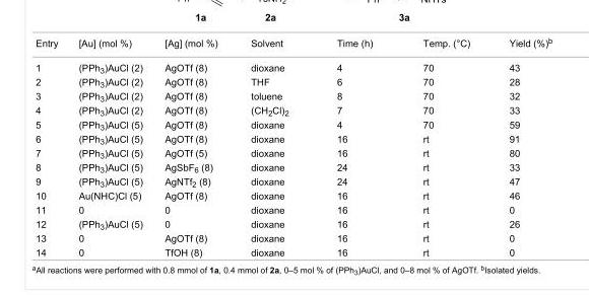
<table><tbody><tr><td>Entry</td><td>[Au] (mol %)</td><td>[Ag] (mol %)</td><td>Solvent</td><td>Time (h)</td><td>Temp. (°C)</td><td>Yield (%)<sup>b</sup></td></tr><tr><td>1</td><td>(PPh<sub>3</sub>)AuCl (2)</td><td>AgOTf (8)</td><td>dioxane</td><td>4</td><td>70</td><td>43</td></tr><tr><td>2</td><td>(PPh<sub>3</sub>)AuCl (2)</td><td>AgOTf (8)</td><td>THF</td><td>6</td><td>70</td><td>28</td></tr><tr><td>3</td><td>(PPh<sub>3</sub>)AuCl (2)</td><td>AgOTf (8)</td><td>toluene</td><td>8</td><td>70</td><td>32</td></tr><tr><td>4</td><td>(PPh<sub>3</sub>)AuCl (2)</td><td>AgOTf (8)</td><td>(CH<sub>2</sub>Cl)<sub>2</sub></td><td>7</td><td>70</td><td>33</td></tr><tr><td>5</td><td>(PPh<sub>3</sub>)AuCl (5)</td><td>AgOTf (8)</td><td>dioxane</td><td>4</td><td>70</td><td>59</td></tr><tr><td>6</td><td>(PPh<sub>3</sub>)AuCl (5)</td><td>AgOTf (8)</td><td>dioxane</td><td>16</td><td>rt</td><td>91</td></tr><tr><td>7</td><td>(PPh<sub>3</sub>)AuCl (5)</td><td>AgOTf (5)</td><td>dioxane</td><td>16</td><td>rt</td><td>80</td></tr><tr><td>8</td><td>(PPh<sub>3</sub>)AuCl (5)</td><td>AgSbF<sub>6</sub> (8)</td><td>dioxane</td><td>24</td><td>rt</td><td>33</td></tr><tr><td>9</td><td>(PPh<sub>3</sub>)AuCl (5)</td><td>AgNTf<sub>2</sub> (8)</td><td>dioxane</td><td>24</td><td>rt</td><td>47</td></tr><tr><td>10</td><td>Au(NHC)Cl (5)</td><td>AgOTf (8)</td><td>dioxane</td><td>16</td><td>rt</td><td>46</td></tr><tr><td>11</td><td>0</td><td>0</td><td>dioxane</td><td>16</td><td>rt</td><td>0</td></tr><tr><td>12</td><td>(PPh<sub>3</sub>)AuCl (5)</td><td>0</td><td>dioxane</td><td>16</td><td>rt</td><td>26</td></tr><tr><td>13</td><td>0</td><td>AgOTf (8)</td><td>dioxane</td><td>16</td><td>rt</td><td>0</td></tr><tr><td>14</td><td>0</td><td>TfOH (8)</td><td>dioxane</td><td>16</td><td>rt</td><td>0</td></tr></tbody></table>